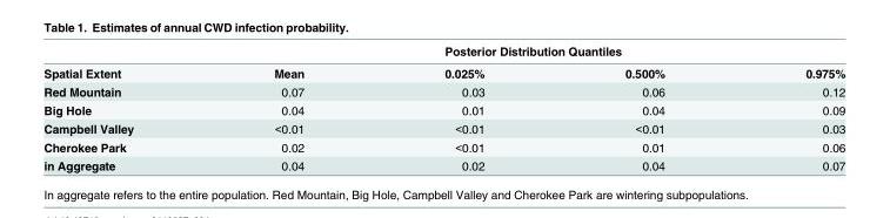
<table><thead><tr><td rowspan="2">Spatial Extent</td><td rowspan="2">Mean</td><td colspan="3">Posterior Distribution Quantiles</td></tr><tr><td>0.025%</td><td>0.500%</td><td>0.975%</td></tr></thead><tbody><tr><td>Red Mountain</td><td>0.07</td><td>0.03</td><td>0.06</td><td>0.12</td></tr><tr><td>Big Hole</td><td>0.04</td><td>0.01</td><td>0.04</td><td>0.09</td></tr><tr><td>Campbell Valley</td><td>&lt;0.01</td><td>&lt;0.01</td><td>&lt;0.01</td><td>0.03</td></tr><tr><td>Cherokee Park</td><td>0.02</td><td>&lt;0.01</td><td>0.01</td><td>0.06</td></tr><tr><td>in Aggregate</td><td>0.04</td><td>0.02</td><td>0.04</td><td>0.07</td></tr></tbody></table>